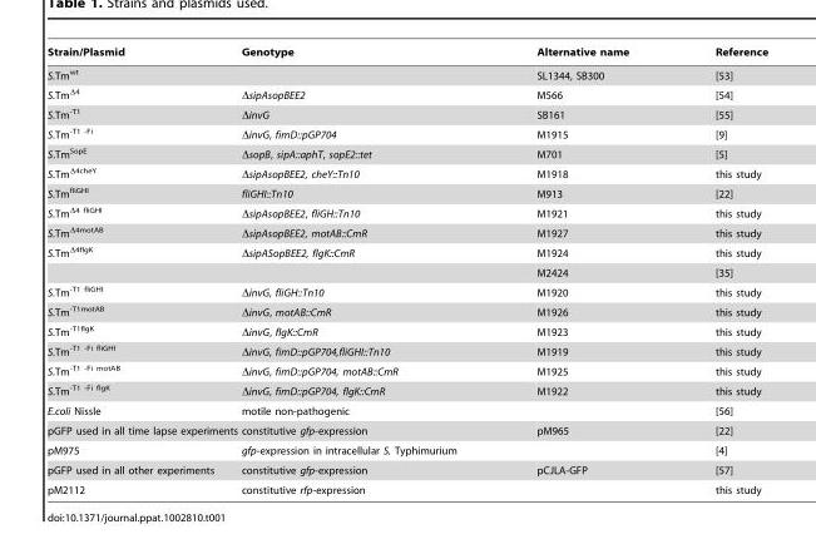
<table><thead><tr><td>Strain/Plasmid</td><td>Genotype</td><td>Alternative name</td><td>Reference</td></tr></thead><tbody><tr><td>S.Tm<sup>wt</sup></td><td></td><td>SL1344, SB300</td><td>[53]</td></tr><tr><td>S.Tm<sup>Δ4</sup></td><td>ΔsipAsopBEE2</td><td>M566</td><td>[54]</td></tr><tr><td>S.Tm<sup>-T1</sup></td><td>ΔinvG</td><td>SB161</td><td>[55]</td></tr><tr><td>S.Tm<sup>-T1 -Fi</sup></td><td>ΔinvG, fimD::pGP704</td><td>M1915</td><td>[9]</td></tr><tr><td>S.Tm<sup>SopE</sup></td><td>ΔsopB, sipA::aphT, sopE2::tet</td><td>M701</td><td>[5]</td></tr><tr><td>S.Tm<sup>Δ4cheY</sup></td><td>ΔsipAsopBEE2, cheY::Tn10</td><td>M1918</td><td>this study</td></tr><tr><td>S.Tm<sup>fliGHI</sup></td><td>fliGHI::Tn10</td><td>M913</td><td>[22]</td></tr><tr><td>S.Tm<sup>Δ4 fliGHI</sup></td><td>ΔsipAsopBEE2, fliGH::Tn10</td><td>M1921</td><td>this study</td></tr><tr><td>S.Tm<sup>Δ4motAB</sup></td><td>ΔsipAsopBEE2, motAB::CmR</td><td>M1927</td><td>this study</td></tr><tr><td rowspan="2">S.Tm<sup>Δ4flgK</sup></td><td>ΔsipASopBEE2, flgK::CmR</td><td>M1924</td><td>this study</td></tr><tr><td></td><td>M2424</td><td>[35]</td></tr><tr><td>S.Tm<sup>-T1 fliGHI</sup></td><td>ΔinvG, fliGH::Tn10</td><td>M1920</td><td>this study</td></tr><tr><td>S.Tm<sup>-T1motAB</sup></td><td>ΔinvG, motAB::CmR</td><td>M1926</td><td>this study</td></tr><tr><td>S.Tm<sup>-T1flgK</sup></td><td>ΔinvG, flgK::CmR</td><td>M1923</td><td>this study</td></tr><tr><td>S.Tm<sup>-T1 -Fi fliGHI</sup></td><td>ΔinvG, fimD::pGP704,fliGHI::Tn10</td><td>M1919</td><td>this study</td></tr><tr><td>S.Tm<sup>-T1 -Fi motAB</sup></td><td>ΔinvG, fimD::pGP704, motAB::CmR</td><td>M1925</td><td>this study</td></tr><tr><td>S.Tm<sup>-T1 -Fi flgK</sup></td><td>ΔinvG, fimD::pGP704, flgK::CmR</td><td>M1922</td><td>this study</td></tr><tr><td>E.coli Nissle</td><td>motile non-pathogenic</td><td></td><td>[56]</td></tr><tr><td>pGFP used in all time lapse experiments</td><td>constitutive gfp-expression</td><td>pM965</td><td>[22]</td></tr><tr><td>pM975</td><td>gfp-expression in intracellular S. Typhimurium</td><td></td><td>[4]</td></tr><tr><td>pGFP used in all other experiments</td><td>constitutive gfp-expression</td><td>pCJLA-GFP</td><td>[57]</td></tr><tr><td>pM2112</td><td>constitutive rfp-expression</td><td></td><td>this study</td></tr></tbody></table>